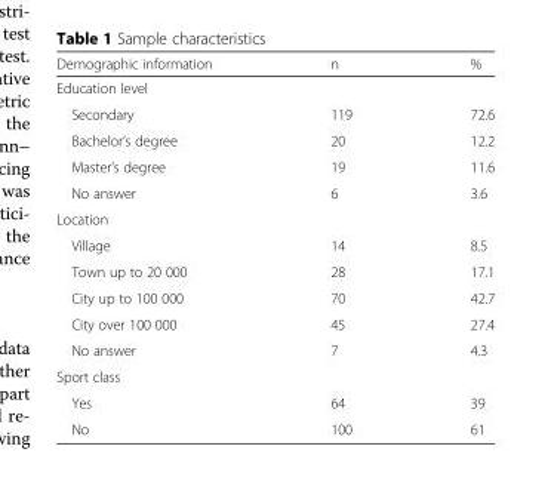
<table><thead><tr><td>Demographic information</td><td>n</td><td>%</td></tr></thead><tbody><tr><td colspan="3">Education level</td></tr><tr><td>Secondary</td><td>119</td><td>72.6</td></tr><tr><td>Bachelor’s degree</td><td>20</td><td>12.2</td></tr><tr><td>Master’s degree</td><td>19</td><td>11.6</td></tr><tr><td>No answer</td><td>6</td><td>3.6</td></tr><tr><td colspan="3">Location</td></tr><tr><td>Village</td><td>14</td><td>8.5</td></tr><tr><td>Town up to 20 000</td><td>28</td><td>17.1</td></tr><tr><td>City up to 100 000</td><td>70</td><td>42.7</td></tr><tr><td>City over 100 000</td><td>45</td><td>27.4</td></tr><tr><td>No answer</td><td>7</td><td>4.3</td></tr><tr><td colspan="3">Sport class</td></tr><tr><td>Yes</td><td>64</td><td>39</td></tr><tr><td>No</td><td>100</td><td>61</td></tr></tbody></table>